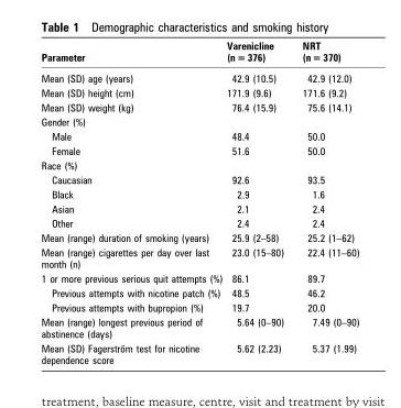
<table><thead><tr><td>Parameter</td><td>Varenicline (n = 376)</td><td>NRT (n = 370)</td></tr></thead><tbody><tr><td>Mean (SD) age (years)</td><td>42.9 (10.5)</td><td>42.9 (12.0)</td></tr><tr><td>Mean (SD) height (cm)</td><td>171.9 (9.6)</td><td>171.6 (9.2)</td></tr><tr><td>Mean (SD) weight (kg)</td><td>76.4 (15.9)</td><td>75.6 (14.1)</td></tr><tr><td colspan="3">Gender (%)</td></tr><tr><td>Male</td><td>48.4</td><td>50.0</td></tr><tr><td>Female</td><td>51.6</td><td>50.0</td></tr><tr><td colspan="3">Race (%)</td></tr><tr><td>Caucasian</td><td>92.6</td><td>93.5</td></tr><tr><td>Black</td><td>2.9</td><td>1.6</td></tr><tr><td>Asian</td><td>2.1</td><td>2.4</td></tr><tr><td>Other</td><td>2.4</td><td>2.4</td></tr><tr><td>Mean (range) duration of smoking (years)</td><td>25.9 (2–58)</td><td>25.2 (1–62)</td></tr><tr><td>Mean (range) cigarettes per day over last month (n)</td><td>23.0 (15–80)</td><td>22.4 (11–60)</td></tr><tr><td>1 or more previous serious quit attempts (%)</td><td>86.1</td><td>89.7</td></tr><tr><td>Previous attempts with nicotine patch (%)</td><td>48.5</td><td>46.2</td></tr><tr><td>Previous attempts with bupropion (%)</td><td>19.7</td><td>20.0</td></tr><tr><td>Mean (range) longest previous period of abstinence (days)</td><td>5.64 (0–90)</td><td>7.49 (0–90)</td></tr><tr><td>Mean (SD) Fagerstro¨m test for nicotine dependence score</td><td>5.62 (2.23)</td><td>5.37 (1.99)</td></tr></tbody></table>